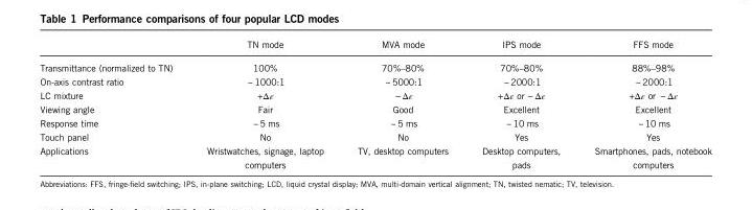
<table><thead><tr><td></td><td>TN mode</td><td>MVA mode</td><td>IPS mode</td><td>FFS mode</td></tr></thead><tbody><tr><td>Transmittance (normalized to TN)</td><td>100%</td><td>70%–80%</td><td>70%–80%</td><td>88%–98%</td></tr><tr><td>On-axis contrast ratio</td><td>~ 1000:1</td><td>~ 5000:1</td><td>~ 2000:1</td><td>~ 2000:1</td></tr><tr><td>LC mixture</td><td>+Δε</td><td>− Δε</td><td>+Δε or − Δε</td><td>+Δε or − Δε</td></tr><tr><td>Viewing angle</td><td>Fair</td><td>Good</td><td>Excellent</td><td>Excellent</td></tr><tr><td>Response time</td><td>~ 5 ms</td><td>~ 5 ms</td><td>~ 10 ms</td><td>~ 10 ms</td></tr><tr><td>Touch panel</td><td>No</td><td>No</td><td>Yes</td><td>Yes</td></tr><tr><td>Applications</td><td>Wristwatches, signage, laptop computers</td><td>TV, desktop computers</td><td>Desktop computers, pads</td><td>Smartphones, pads, notebook computers</td></tr></tbody></table>